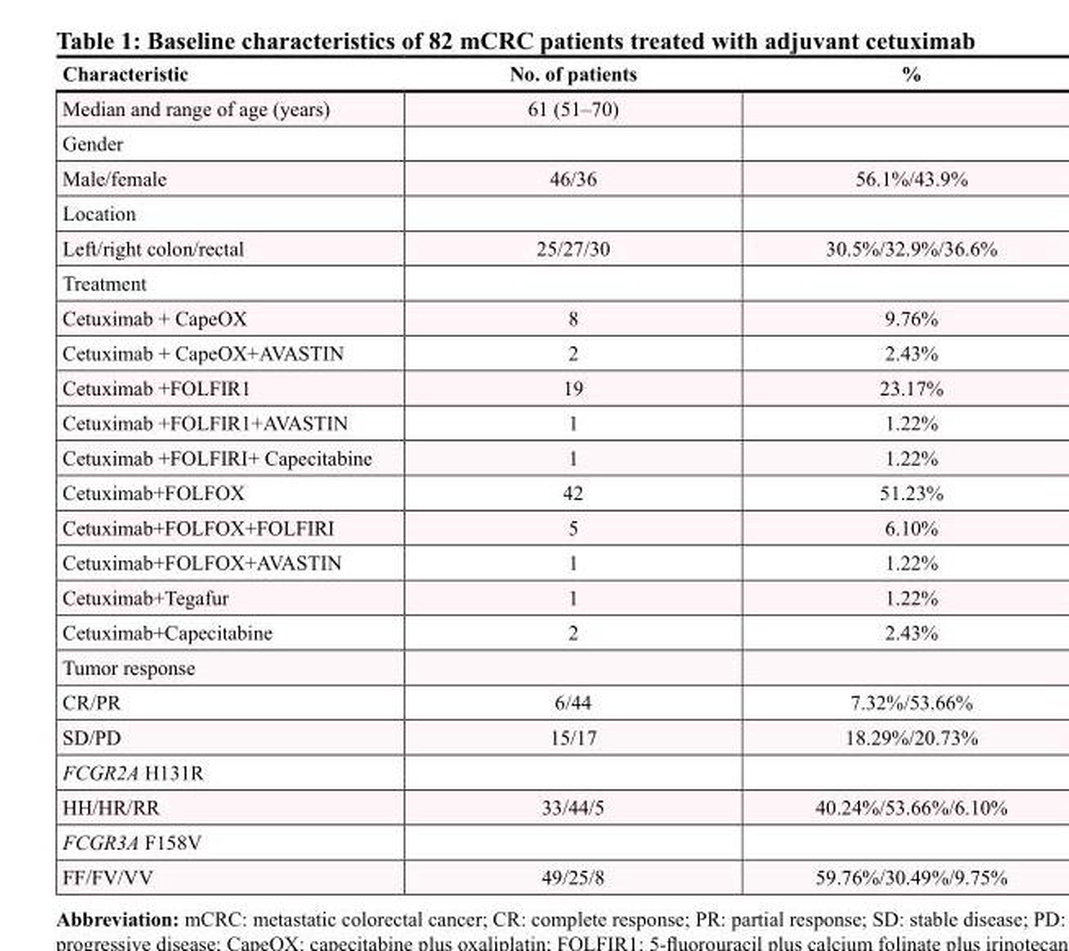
<table><thead><tr><td>Characteristic</td><td>No. of patients</td><td>%</td></tr></thead><tbody><tr><td>Median and range of age (years)</td><td>61 (51–70)</td><td></td></tr><tr><td colspan="3">Gender</td></tr><tr><td>Male/female</td><td>46/36</td><td>56.1%/43.9%</td></tr><tr><td colspan="3">Location</td></tr><tr><td>Left/right colon/rectal</td><td>25/27/30</td><td>30.5%/32.9%/36.6%</td></tr><tr><td colspan="3">Treatment</td></tr><tr><td>Cetuximab + CapeOX</td><td>8</td><td>9.76%</td></tr><tr><td>Cetuximab + CapeOX+AVASTIN</td><td>2</td><td>2.43%</td></tr><tr><td>Cetuximab +FOLFIR1</td><td>19</td><td>23.17%</td></tr><tr><td>Cetuximab +FOLFIR1+AVASTIN</td><td>1</td><td>1.22%</td></tr><tr><td>Cetuximab +FOLFIRI+ Capecitabine</td><td>1</td><td>1.22%</td></tr><tr><td>Cetuximab+FOLFOX</td><td>42</td><td>51.23%</td></tr><tr><td>Cetuximab+FOLFOX+FOLFIRI</td><td>5</td><td>6.10%</td></tr><tr><td>Cetuximab+FOLFOX+AVASTIN</td><td>1</td><td>1.22%</td></tr><tr><td>Cetuximab+Tegafur</td><td>1</td><td>1.22%</td></tr><tr><td>Cetuximab+Capecitabine</td><td>2</td><td>2.43%</td></tr><tr><td colspan="3">Tumor response</td></tr><tr><td>CR/PR</td><td>6/44</td><td>7.32%/53.66%</td></tr><tr><td>SD/PD</td><td>15/17</td><td>18.29%/20.73%</td></tr><tr><td colspan="3">FCGR2A H131R</td></tr><tr><td>HH/HR/RR</td><td>33/44/5</td><td>40.24%/53.66%/6.10%</td></tr><tr><td colspan="3">FCGR3A F158V</td></tr><tr><td>FF/FV/VV</td><td>49/25/8</td><td>59.76%/30.49%/9.75%</td></tr></tbody></table>